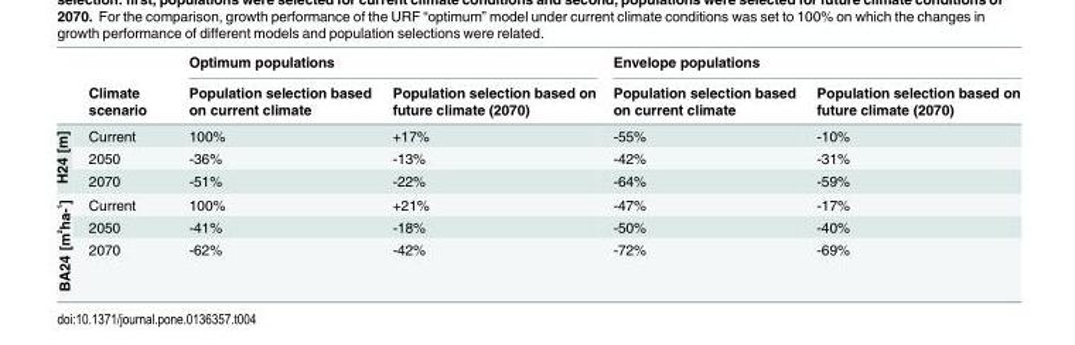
<table><thead><tr><td rowspan="2"></td><td rowspan="2">Climate scenario</td><td colspan="2">Optimum populations</td><td colspan="2">Envelope populations</td></tr><tr><td>Population selection based on current climate</td><td>Population selection based on future climate (2070)</td><td>Population selection based on current climate</td><td>Population selection based on future climate (2070)</td></tr></thead><tbody><tr><td rowspan="3">H24 [m]</td><td>Current</td><td>100%</td><td>+17%</td><td>-55%</td><td>-10%</td></tr><tr><td>2050</td><td>-36%</td><td>-13%</td><td>-42%</td><td>-31%</td></tr><tr><td>2070</td><td>-51%</td><td>-22%</td><td>-64%</td><td>-59%</td></tr><tr><td rowspan="3">BA24 [m <sup>2</sup>ha- <sup>1</sup>]</td><td>Current</td><td>100%</td><td>+21%</td><td>-47%</td><td>-17%</td></tr><tr><td>2050</td><td>-41%</td><td>-18%</td><td>-50%</td><td>-40%</td></tr><tr><td>2070</td><td>-62%</td><td>-42%</td><td>-72%</td><td>-69%</td></tr></tbody></table>